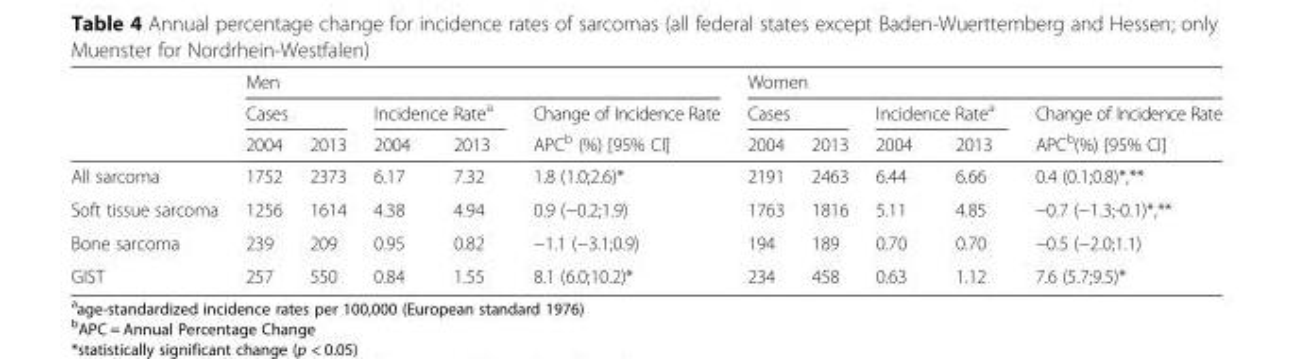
<table><thead><tr><td rowspan="3"></td><td colspan="5">Men</td><td colspan="5">Women</td></tr><tr><td colspan="2">Cases</td><td colspan="2">Incidence Rate<sup>a</sup></td><td rowspan="2">Change of Incidence Rate APC<sup>b</sup> (%) [95% CI]</td><td colspan="2">Cases</td><td colspan="2">Incidence Rate<sup>a</sup></td><td rowspan="2">Change of Incidence Rate APC<sup>b</sup>(%) [95% CI]</td></tr><tr><td>2004</td><td>2013</td><td>2004</td><td>2013</td><td>2004</td><td>2013</td><td>2004</td><td>2013</td></tr></thead><tbody><tr><td>All sarcoma</td><td>1752</td><td>2373</td><td>6.17</td><td>7.32</td><td>1.8 (1.0;2.6)*</td><td>2191</td><td>2463</td><td>6.44</td><td>6.66</td><td>0.4 (0.1;0.8)*,**</td></tr><tr><td>Soft tissue sarcoma</td><td>1256</td><td>1614</td><td>4.38</td><td>4.94</td><td>0.9 (−0.2;1.9)</td><td>1763</td><td>1816</td><td>5.11</td><td>4.85</td><td>−0.7 (−1.3;-0.1)*,**</td></tr><tr><td>Bone sarcoma</td><td>239</td><td>209</td><td>0.95</td><td>0.82</td><td>−1.1 (−3.1;0.9)</td><td>194</td><td>189</td><td>0.70</td><td>0.70</td><td>−0.5 (−2.0;1.1)</td></tr><tr><td>GIST</td><td>257</td><td>550</td><td>0.84</td><td>1.55</td><td>8.1 (6.0;10.2)*</td><td>234</td><td>458</td><td>0.63</td><td>1.12</td><td>7.6 (5.7;9.5)*</td></tr></tbody></table>